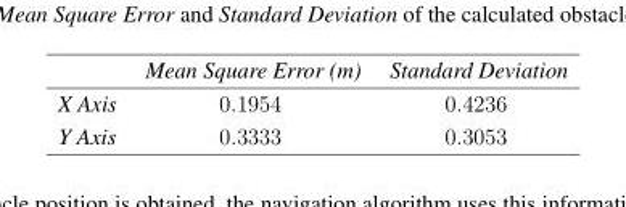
<table><thead><tr><td></td><td>Mean Square Error (m)</td><td>Standard Deviation</td></tr></thead><tbody><tr><td>X Axis</td><td>0.1954</td><td>0.4236</td></tr><tr><td>Y Axis</td><td>0.3333</td><td>0.3053</td></tr></tbody></table>